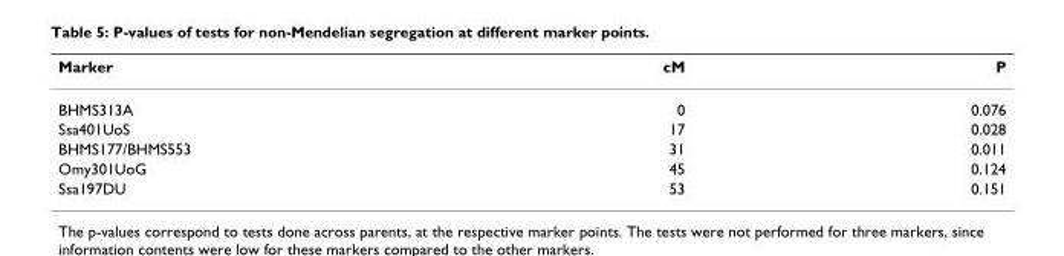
<table><thead><tr><td>Marker</td><td>cM</td><td>P</td></tr></thead><tbody><tr><td>BHMS313A</td><td>0</td><td>0.076</td></tr><tr><td>Ssa401UoS</td><td>17</td><td>0.028</td></tr><tr><td>BHMS177/BHMS553</td><td>31</td><td>0.011</td></tr><tr><td>Omy301UoG</td><td>45</td><td>0.124</td></tr><tr><td>Ssa197DU</td><td>53</td><td>0.151</td></tr></tbody></table>